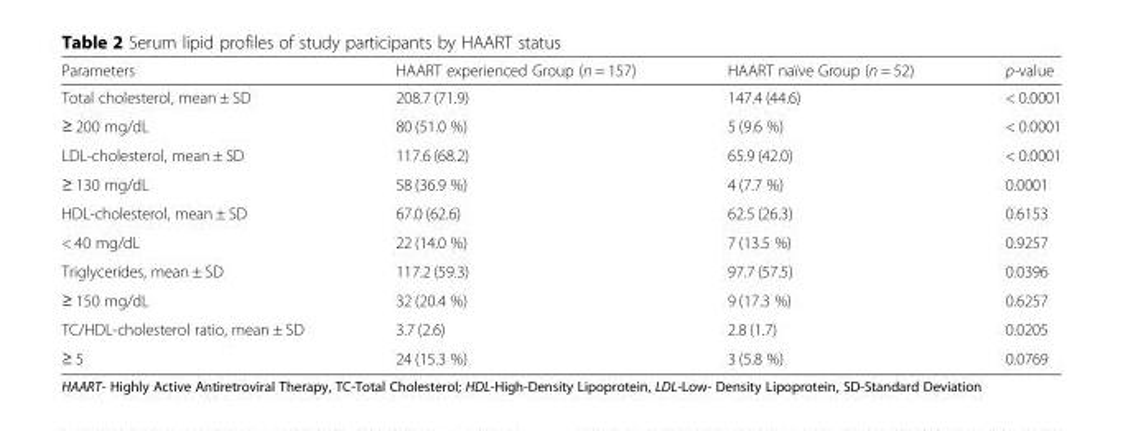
<table><thead><tr><td>Parameters</td><td>HAART experienced Group (n = 157)</td><td>HAART naïve Group (n = 52)</td><td>p-value</td></tr></thead><tbody><tr><td>Total cholesterol, mean ± SD</td><td>208.7 (71.9)</td><td>147.4 (44.6)</td><td>&lt; 0.0001</td></tr><tr><td>≥ 200 mg/dL</td><td>80 (51.0 %)</td><td>5 (9.6 %)</td><td>&lt; 0.0001</td></tr><tr><td>LDL-cholesterol, mean ± SD</td><td>117.6 (68.2)</td><td>65.9 (42.0)</td><td>&lt; 0.0001</td></tr><tr><td>≥ 130 mg/dL</td><td>58 (36.9 %)</td><td>4 (7.7 %)</td><td>0.0001</td></tr><tr><td>HDL-cholesterol, mean ± SD</td><td>67.0 (62.6)</td><td>62.5 (26.3)</td><td>0.6153</td></tr><tr><td>&lt; 40 mg/dL</td><td>22 (14.0 %)</td><td>7 (13.5 %)</td><td>0.9257</td></tr><tr><td>Triglycerides, mean ± SD</td><td>117.2 (59.3)</td><td>97.7 (57.5)</td><td>0.0396</td></tr><tr><td>≥ 150 mg/dL</td><td>32 (20.4 %)</td><td>9 (17.3 %)</td><td>0.6257</td></tr><tr><td>TC/HDL-cholesterol ratio, mean ± SD</td><td>3.7 (2.6)</td><td>2.8 (1.7)</td><td>0.0205</td></tr><tr><td>≥ 5</td><td>24 (15.3 %)</td><td>3 (5.8 %)</td><td>0.0769</td></tr></tbody></table>